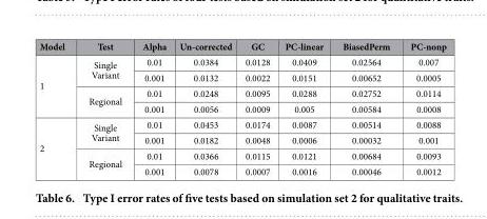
<table><thead><tr><td>Model</td><td>Test</td><td>Alpha</td><td>Un-corrected</td><td>GC</td><td>PC-linear</td><td>BiasedPerm</td><td>PC-nonp</td></tr></thead><tbody><tr><td rowspan="4">1</td><td rowspan="2">Single Variant</td><td>0.01</td><td>0.0384</td><td>0.0128</td><td>0.0409</td><td>0.02564</td><td>0.007</td></tr><tr><td>0.001</td><td>0.0132</td><td>0.0022</td><td>0.0151</td><td>0.00652</td><td>0.0005</td></tr><tr><td rowspan="2">Regional</td><td>0.01</td><td>0.0248</td><td>0.0095</td><td>0.0288</td><td>0.02752</td><td>0.0114</td></tr><tr><td>0.001</td><td>0.0056</td><td>0.0009</td><td>0.005</td><td>0.00584</td><td>0.0008</td></tr><tr><td rowspan="4">2</td><td rowspan="2">Single Variant</td><td>0.01</td><td>0.0453</td><td>0.0174</td><td>0.0087</td><td>0.00514</td><td>0.0088</td></tr><tr><td>0.001</td><td>0.0182</td><td>0.0048</td><td>0.0006</td><td>0.00032</td><td>0.001</td></tr><tr><td rowspan="2">Regional</td><td>0.01</td><td>0.0366</td><td>0.0115</td><td>0.0121</td><td>0.00684</td><td>0.0093</td></tr><tr><td>0.001</td><td>0.0078</td><td>0.0007</td><td>0.0016</td><td>0.00046</td><td>0.0012</td></tr></tbody></table>